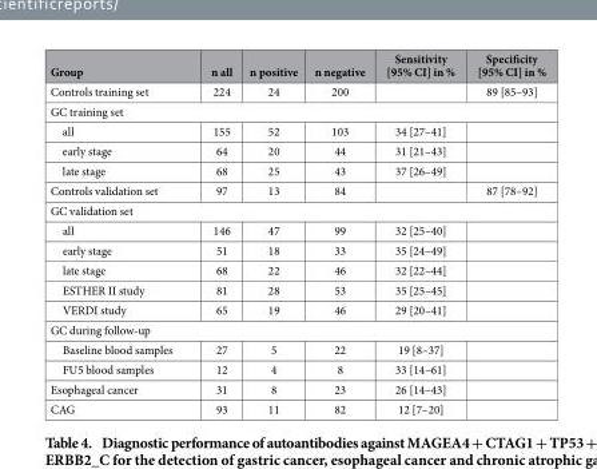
<table><thead><tr><td>Group</td><td>n all</td><td>n positive</td><td>n negative</td><td>Sensitivity [95% CI] in %</td><td>Specificity [95% CI] in %</td></tr></thead><tbody><tr><td>Controls training set</td><td>224</td><td>24</td><td>200</td><td></td><td>89 [85–93]</td></tr><tr><td colspan="6">GC training set</td></tr><tr><td>all</td><td>155</td><td>52</td><td>103</td><td>34 [27–41]</td><td></td></tr><tr><td>early stage</td><td>64</td><td>20</td><td>44</td><td>31 [21–43]</td><td></td></tr><tr><td>late stage</td><td>68</td><td>25</td><td>43</td><td>37 [26–49]</td><td></td></tr><tr><td>Controls validation set</td><td>97</td><td>13</td><td>84</td><td></td><td>87 [78–92]</td></tr><tr><td colspan="6">GC validation set</td></tr><tr><td>all</td><td>146</td><td>47</td><td>99</td><td>32 [25–40]</td><td></td></tr><tr><td>early stage</td><td>51</td><td>18</td><td>33</td><td>35 [24–49]</td><td></td></tr><tr><td>late stage</td><td>68</td><td>22</td><td>46</td><td>32 [22–44]</td><td></td></tr><tr><td>ESTHER II study</td><td>81</td><td>28</td><td>53</td><td>35 [25–45]</td><td></td></tr><tr><td>VERDI study</td><td>65</td><td>19</td><td>46</td><td>29 [20–41]</td><td></td></tr><tr><td colspan="6">GC during follow-up</td></tr><tr><td>Baseline blood samples</td><td>27</td><td>5</td><td>22</td><td>19 [8–37]</td><td></td></tr><tr><td>FU5 blood samples</td><td>12</td><td>4</td><td>8</td><td>33 [14–61]</td><td></td></tr><tr><td>Esophageal cancer</td><td>31</td><td>8</td><td>23</td><td>26 [14–43]</td><td></td></tr><tr><td>CAG</td><td>93</td><td>11</td><td>82</td><td>12 [7–20]</td><td></td></tr></tbody></table>